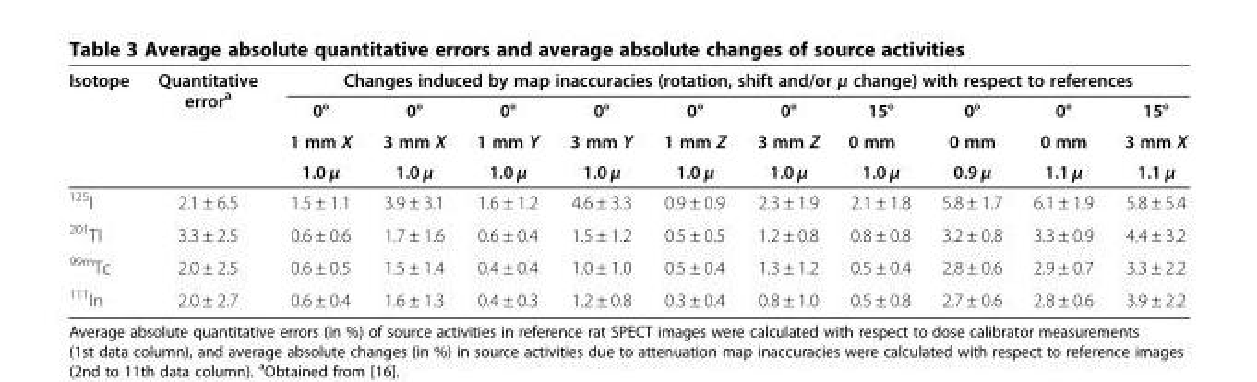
<table><thead><tr><td rowspan="4">Isotope</td><td rowspan="4">Quantitative error<sup>a</sup></td><td colspan="10">Changes induced by map inaccuracies (rotation, shift and/or μ change) with respect to references</td></tr><tr><td rowspan="3">0° 1 mm X 1.0 μ</td><td rowspan="3">0° 3 mm X 1.0 μ</td><td rowspan="3">0° 1 mm Y 1.0 μ</td><td rowspan="3">0° 3 mm Y 1.0 μ</td><td rowspan="3">0° 1 mm Z 1.0 μ</td><td rowspan="3">0° 3 mm Z 1.0 μ</td><td rowspan="3">15° 0 mm 1.0 μ</td><td rowspan="3">0° 0 mm 0.9 μ</td><td rowspan="3">0° 0 mm 1.1 μ</td><td rowspan="3">15° 3 mm X 1.1 μ</td></tr><tr></tr><tr></tr></thead><tbody><tr><td><sup>125</sup>I</td><td>2.1 ± 6.5</td><td>1.5 ± 1.1</td><td>3.9 ± 3.1</td><td>1.6 ± 1.2</td><td>4.6 ± 3.3</td><td>0.9 ± 0.9</td><td>2.3 ± 1.9</td><td>2.1 ± 1.8</td><td>5.8 ± 1.7</td><td>6.1 ± 1.9</td><td>5.8 ± 5.4</td></tr><tr><td><sup>201</sup>Tl</td><td>3.3 ± 2.5</td><td>0.6 ± 0.6</td><td>1.7 ± 1.6</td><td>0.6 ± 0.4</td><td>1.5 ± 1.2</td><td>0.5 ± 0.5</td><td>1.2 ± 0.8</td><td>0.8 ± 0.8</td><td>3.2 ± 0.8</td><td>3.3 ± 0.9</td><td>4.4 ± 3.2</td></tr><tr><td><sup>99m</sup>Tc</td><td>2.0 ± 2.5</td><td>0.6 ± 0.5</td><td>1.5 ± 1.4</td><td>0.4 ± 0.4</td><td>1.0 ± 1.0</td><td>0.5 ± 0.4</td><td>1.3 ± 1.2</td><td>0.5 ± 0.4</td><td>2.8 ± 0.6</td><td>2.9 ± 0.7</td><td>3.3 ± 2.2</td></tr><tr><td><sup>111</sup>In</td><td>2.0 ± 2.7</td><td>0.6 ± 0.4</td><td>1.6 ± 1.3</td><td>0.4 ± 0.3</td><td>1.2 ± 0.8</td><td>0.3 ± 0.4</td><td>0.8 ± 1.0</td><td>0.5 ± 0.8</td><td>2.7 ± 0.6</td><td>2.8 ± 0.6</td><td>3.9 ± 2.2</td></tr></tbody></table>